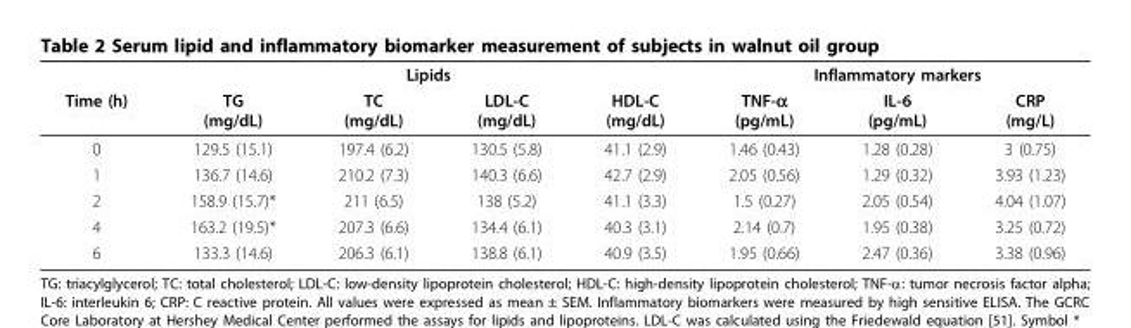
<table><thead><tr><td rowspan="2">Time (h)</td><td colspan="4">Lipids</td><td colspan="3">Inflammatory markers</td></tr><tr><td>TG (mg/dL)</td><td>TC (mg/dL)</td><td>LDL-C (mg/dL)</td><td>HDL-C (mg/dL)</td><td>TNF-α (pg/mL)</td><td>IL-6 (pg/mL)</td><td>CRP (mg/L)</td></tr></thead><tbody><tr><td>0</td><td>129.5 (15.1)</td><td>197.4 (6.2)</td><td>130.5 (5.8)</td><td>41.1 (2.9)</td><td>1.46 (0.43)</td><td>1.28 (0.28)</td><td>3 (0.75)</td></tr><tr><td>1</td><td>136.7 (14.6)</td><td>210.2 (7.3)</td><td>140.3 (6.6)</td><td>42.7 (2.9)</td><td>2.05 (0.56)</td><td>1.29 (0.32)</td><td>3.93 (1.23)</td></tr><tr><td>2</td><td>158.9 (15.7)*</td><td>211 (6.5)</td><td>138 (5.2)</td><td>41.1 (3.3)</td><td>1.5 (0.27)</td><td>2.05 (0.54)</td><td>4.04 (1.07)</td></tr><tr><td>4</td><td>163.2 (19.5)*</td><td>207.3 (6.6)</td><td>134.4 (6.1)</td><td>40.3 (3.1)</td><td>2.14 (0.7)</td><td>1.95 (0.38)</td><td>3.25 (0.72)</td></tr><tr><td>6</td><td>133.3 (14.6)</td><td>206.3 (6.1)</td><td>138.8 (6.1)</td><td>40.9 (3.5)</td><td>1.95 (0.66)</td><td>2.47 (0.36)</td><td>3.38 (0.96)</td></tr></tbody></table>